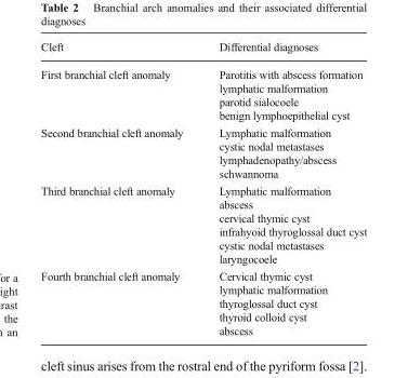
<table><thead><tr><td>Cleft</td><td>Differential diagnoses</td></tr></thead><tbody><tr><td>First branchial cleft anomaly</td><td>Parotitis with abscess formation lymphatic malformation parotid sialocoele benign lymphoepithelial cyst</td></tr><tr><td>Second branchial cleft anomaly</td><td>Lymphatic malformation cystic nodal metastases lymphadenopathy/abscess schwannoma</td></tr><tr><td>Third branchial cleft anomaly</td><td>Lymphatic malformation abscess cervical thymic cyst infrahyoid thyroglossal duct cyst cystic nodal metastases laryngocoele</td></tr><tr><td>Fourth branchial cleft anomaly</td><td>Cervical thymic cyst lymphatic malformation thyroglossal duct cyst thyroid colloid cyst abscess</td></tr></tbody></table>